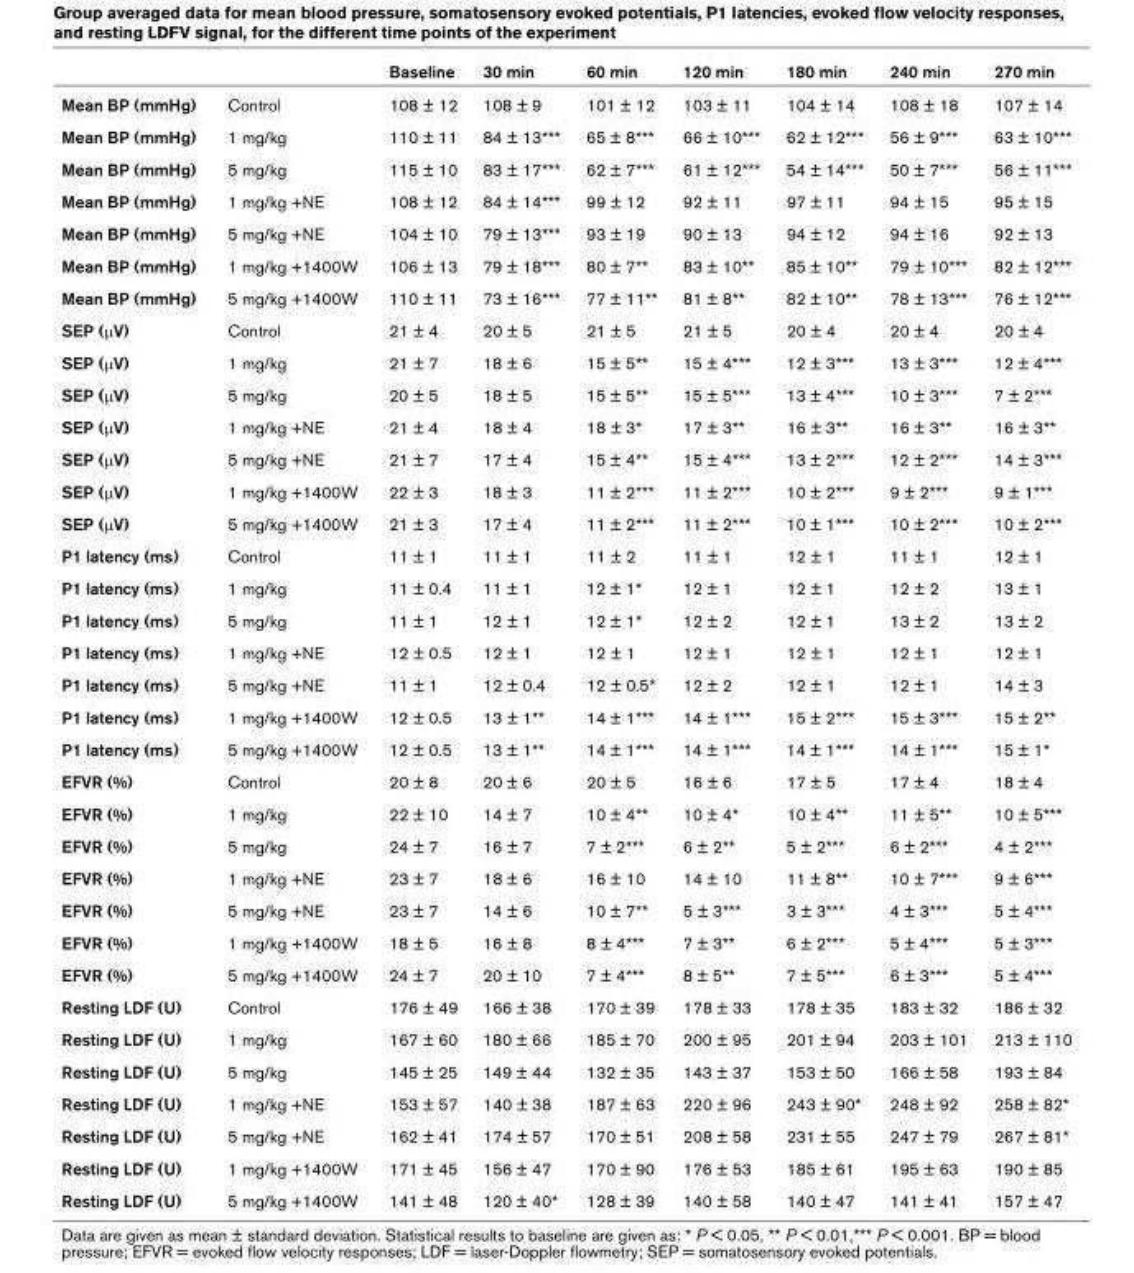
<table><thead><tr><td></td><td></td><td>Baseline</td><td>30 min</td><td>60 min</td><td>120 min</td><td>180 min</td><td>240 min</td><td>270 min</td></tr></thead><tbody><tr><td>Mean BP (mmHg)</td><td>Control</td><td>108 ± 12</td><td>108 ± 9</td><td>101 ± 12</td><td>103 ± 11</td><td>104 ± 14</td><td>108 ± 18</td><td>107 ± 14</td></tr><tr><td>Mean BP (mmHg)</td><td>1 mg/kg</td><td>110 ± 11</td><td>84 ± 13***</td><td>65 ± 8***</td><td>66 ± 10***</td><td>62 ± 12***</td><td>56 ± 9***</td><td>63 ± 10***</td></tr><tr><td>Mean BP (mmHg)</td><td>5 mg/kg</td><td>115 ± 10</td><td>83 ± 17***</td><td>62 ± 7***</td><td>61 ± 12***</td><td>54 ± 14***</td><td>50 ± 7***</td><td>56 ± 11***</td></tr><tr><td>Mean BP (mmHg)</td><td>1 mg/kg +NE</td><td>108 ± 12</td><td>84 ± 14***</td><td>99 ± 12</td><td>92 ± 11</td><td>97 ± 11</td><td>94 ± 15</td><td>95 ± 15</td></tr><tr><td>Mean BP (mmHg)</td><td>5 mg/kg +NE</td><td>104 ± 10</td><td>79 ± 13***</td><td>93 ± 19</td><td>90 ± 13</td><td>94 ± 12</td><td>94 ± 16</td><td>92 ± 13</td></tr><tr><td>Mean BP (mmHg)</td><td>1 mg/kg +1400W</td><td>106 ± 13</td><td>79 ± 18***</td><td>80 ± 7**</td><td>83 ± 10**</td><td>85 ± 10**</td><td>79 ± 10***</td><td>82 ± 12***</td></tr><tr><td>Mean BP (mmHg)</td><td>5 mg/kg +1400W</td><td>110 ± 11</td><td>73 ± 16***</td><td>77 ± 11**</td><td>81 ± 8**</td><td>82 ± 10**</td><td>78 ± 13***</td><td>76 ± 12***</td></tr><tr><td>SEP (μV)</td><td>Control</td><td>21 ± 4</td><td>20 ± 5</td><td>21 ± 5</td><td>21 ± 5</td><td>20 ± 4</td><td>20 ± 4</td><td>20 ± 4</td></tr><tr><td>SEP (μV)</td><td>1 mg/kg</td><td>21 ± 7</td><td>18 ± 6</td><td>15 ± 5**</td><td>15 ± 4***</td><td>12 ± 3***</td><td>13 ± 3***</td><td>12 ± 4***</td></tr><tr><td>SEP (μV)</td><td>5 mg/kg</td><td>20 ± 5</td><td>18 ± 5</td><td>15 ± 5**</td><td>15 ± 5***</td><td>13 ± 4***</td><td>10 ± 3***</td><td>7 ± 2***</td></tr><tr><td>SEP (μV)</td><td>1 mg/kg +NE</td><td>21 ± 4</td><td>18 ± 4</td><td>18 ± 3*</td><td>17 ± 3**</td><td>16 ± 3**</td><td>16 ± 3**</td><td>16 ± 3**</td></tr><tr><td>SEP (μV)</td><td>5 mg/kg +NE</td><td>21 ± 7</td><td>17 ± 4</td><td>15 ± 4**</td><td>15 ± 4***</td><td>13 ± 2***</td><td>12 ± 2***</td><td>14 ± 3***</td></tr><tr><td>SEP (μV)</td><td>1 mg/kg +1400W</td><td>22 ± 3</td><td>18 ± 3</td><td>11 ± 2***</td><td>11 ± 2***</td><td>10 ± 2***</td><td>9 ± 2***</td><td>9 ± 1***</td></tr><tr><td>SEP (μV)</td><td>5 mg/kg +1400W</td><td>21 ± 3</td><td>17 ± 4</td><td>11 ± 2***</td><td>11 ± 2***</td><td>10 ± 1***</td><td>10 ± 2***</td><td>10 ± 2***</td></tr><tr><td>P1 latency (ms)</td><td>Control</td><td>11 ± 1</td><td>11 ± 1</td><td>11 ± 2</td><td>11 ± 1</td><td>12 ± 1</td><td>11 ± 1</td><td>12 ± 1</td></tr><tr><td>P1 latency (ms)</td><td>1 mg/kg</td><td>11 ± 0.4</td><td>11 ± 1</td><td>12 ± 1*</td><td>12 ± 1</td><td>12 ± 1</td><td>12 ± 2</td><td>13 ± 1</td></tr><tr><td>P1 latency (ms)</td><td>5 mg/kg</td><td>11 ± 1</td><td>12 ± 1</td><td>12 ± 1*</td><td>12 ± 2</td><td>12 ± 1</td><td>13 ± 2</td><td>13 ± 2</td></tr><tr><td>P1 latency (ms)</td><td>1 mg/kg +NE</td><td>12 ± 0.5</td><td>12 ± 1</td><td>12 ± 1</td><td>12 ± 1</td><td>12 ± 1</td><td>12 ± 1</td><td>12 ± 1</td></tr><tr><td>P1 latency (ms)</td><td>5 mg/kg +NE</td><td>11 ± 1</td><td>12 ± 0.4</td><td>12 ± 0.5*</td><td>12 ± 2</td><td>12 ± 1</td><td>12 ± 1</td><td>14 ± 3</td></tr><tr><td>P1 latency (ms)</td><td>1 mg/kg +1400W</td><td>12 ± 0.5</td><td>13 ± 1**</td><td>14 ± 1***</td><td>14 ± 1***</td><td>15 ± 2***</td><td>15 ± 3***</td><td>15 ± 2**</td></tr><tr><td>P1 latency (ms)</td><td>5 mg/kg +1400W</td><td>12 ± 0.5</td><td>13 ± 1**</td><td>14 ± 1***</td><td>14 ± 1***</td><td>14 ± 1***</td><td>14 ± 1***</td><td>15 ± 1*</td></tr><tr><td>EFVR (%)</td><td>Control</td><td>20 ± 8</td><td>20 ± 6</td><td>20 ± 5</td><td>16 ± 6</td><td>17 ± 5</td><td>17 ± 4</td><td>18 ± 4</td></tr><tr><td>EFVR (%)</td><td>1 mg/kg</td><td>22 ± 10</td><td>14 ± 7</td><td>10 ± 4**</td><td>10 ± 4*</td><td>10 ± 4**</td><td>11 ± 5**</td><td>10 ± 5***</td></tr><tr><td>EFVR (%)</td><td>5 mg/kg</td><td>24 ± 7</td><td>16 ± 7</td><td>7 ± 2***</td><td>6 ± 2**</td><td>5 ± 2***</td><td>6 ± 2***</td><td>4 ± 2***</td></tr><tr><td>EFVR (%)</td><td>1 mg/kg +NE</td><td>23 ± 7</td><td>18 ± 6</td><td>16 ± 10</td><td>14 ± 10</td><td>11 ± 8**</td><td>10 ± 7***</td><td>9 ± 6***</td></tr><tr><td>EFVR (%)</td><td>5 mg/kg +NE</td><td>23 ± 7</td><td>14 ± 6</td><td>10 ± 7**</td><td>5 ± 3***</td><td>3 ± 3***</td><td>4 ± 3***</td><td>5 ± 4***</td></tr><tr><td>EFVR (%)</td><td>1 mg/kg +1400W</td><td>18 ± 5</td><td>16 ± 8</td><td>8 ± 4***</td><td>7 ± 3**</td><td>6 ± 2***</td><td>5 ± 4***</td><td>5 ± 3***</td></tr><tr><td>EFVR (%)</td><td>5 mg/kg +1400W</td><td>24 ± 7</td><td>20 ± 10</td><td>7 ± 4***</td><td>8 ± 5**</td><td>7 ± 5***</td><td>6 ± 3***</td><td>5 ± 4***</td></tr><tr><td>Resting LDF (U)</td><td>Control</td><td>176 ± 49</td><td>166 ± 38</td><td>170 ± 39</td><td>178 ± 33</td><td>178 ± 35</td><td>183 ± 32</td><td>186 ± 32</td></tr><tr><td>Resting LDF (U)</td><td>1 mg/kg</td><td>167 ± 60</td><td>180 ± 66</td><td>185 ± 70</td><td>200 ± 95</td><td>201 ± 94</td><td>203 ± 101</td><td>213 ± 110</td></tr><tr><td>Resting LDF (U)</td><td>5 mg/kg</td><td>145 ± 25</td><td>149 ± 44</td><td>132 ± 35</td><td>143 ± 37</td><td>153 ± 50</td><td>166 ± 58</td><td>193 ± 84</td></tr><tr><td>Resting LDF (U)</td><td>1 mg/kg +NE</td><td>153 ± 57</td><td>140 ± 38</td><td>187 ± 63</td><td>220 ± 96</td><td>243 ± 90*</td><td>248 ± 92</td><td>258 ± 82*</td></tr><tr><td>Resting LDF (U)</td><td>5 mg/kg +NE</td><td>162 ± 41</td><td>174 ± 57</td><td>170 ± 51</td><td>208 ± 58</td><td>231 ± 55</td><td>247 ± 79</td><td>267 ± 81*</td></tr><tr><td>Resting LDF (U)</td><td>1 mg/kg +1400W</td><td>171 ± 45</td><td>156 ± 47</td><td>170 ± 90</td><td>176 ± 53</td><td>185 ± 61</td><td>195 ± 63</td><td>190 ± 85</td></tr><tr><td>Resting LDF (U)</td><td>5 mg/kg +1400W</td><td>141 ± 48</td><td>120 ± 40*</td><td>128 ± 39</td><td>140 ± 58</td><td>140 ± 47</td><td>141 ± 41</td><td>157 ± 47</td></tr></tbody></table>